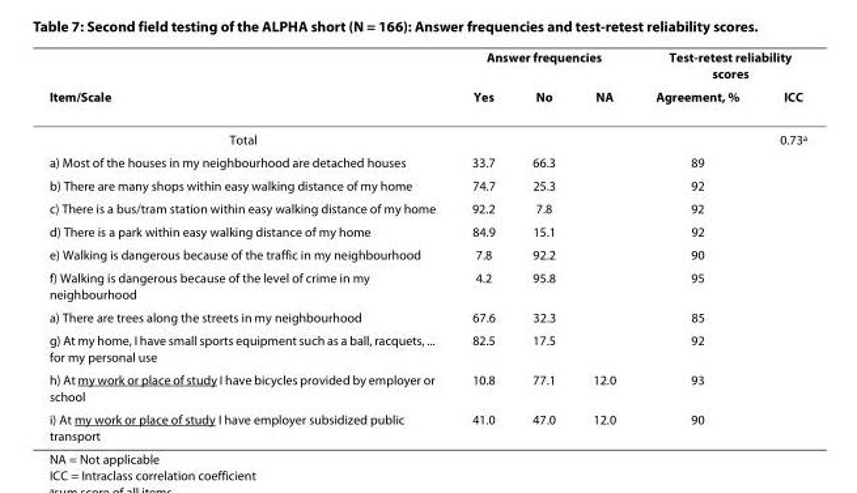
<table><thead><tr><td rowspan="2">Item/Scale</td><td colspan="3">Answer frequencies</td><td colspan="2">Test-retest reliability scores</td></tr><tr><td>Yes</td><td>No</td><td>NA</td><td>Agreement, %</td><td>ICC</td></tr></thead><tbody><tr><td>Total</td><td></td><td></td><td></td><td></td><td>0.73<sup>a</sup></td></tr><tr><td>a) Most of the houses in my neighbourhood are detached houses</td><td>33.7</td><td>66.3</td><td></td><td>89</td><td></td></tr><tr><td>b) There are many shops within easy walking distance of my home</td><td>74.7</td><td>25.3</td><td></td><td>92</td><td></td></tr><tr><td>c) There is a bus/tram station within easy walking distance of my home</td><td>92.2</td><td>7.8</td><td></td><td>92</td><td></td></tr><tr><td>d) There is a park within easy walking distance of my home</td><td>84.9</td><td>15.1</td><td></td><td>92</td><td></td></tr><tr><td>e) Walking is dangerous because of the traffic in my neighbourhood</td><td>7.8</td><td>92.2</td><td></td><td>90</td><td></td></tr><tr><td>f) Walking is dangerous because of the level of crime in my neighbourhood</td><td>4.2</td><td>95.8</td><td></td><td>95</td><td></td></tr><tr><td>a) There are trees along the streets in my neighbourhood</td><td>67.6</td><td>32.3</td><td></td><td>85</td><td></td></tr><tr><td>g) At my home, I have small sports equipment such as a ball, racquets, ... for my personal use</td><td>82.5</td><td>17.5</td><td></td><td>92</td><td></td></tr><tr><td>h) At my work or place of study I have bicycles provided by employer or school</td><td>10.8</td><td>77.1</td><td>12.0</td><td>93</td><td></td></tr><tr><td>i) At my work or place of study I have employer subsidized public transport</td><td>41.0</td><td>47.0</td><td>12.0</td><td>90</td><td></td></tr></tbody></table>